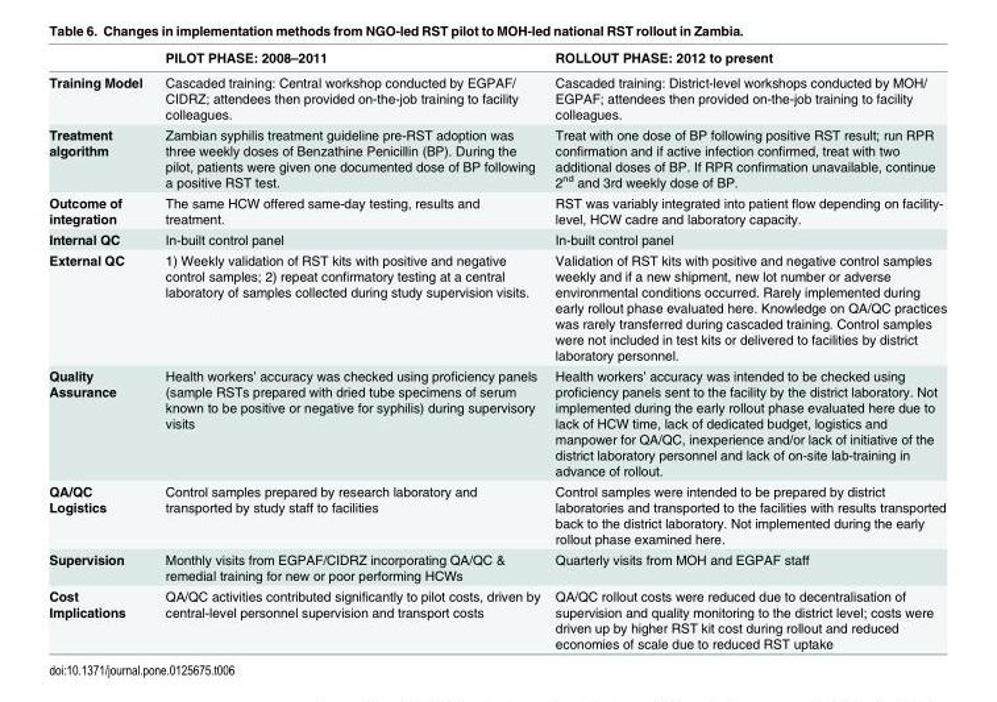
<table><thead><tr><td></td><td>PILOT PHASE: 2008–2011</td><td>ROLLOUT PHASE: 2012 to present</td></tr></thead><tbody><tr><td>Training Model</td><td>Cascaded training: Central workshop conducted by EGPAF/ CIDRZ; attendees then provided on-the-job training to facility colleagues.</td><td>Cascaded training: District-level workshops conducted by MOH/ EGPAF; attendees then provided on-the-job training to facility colleagues.</td></tr><tr><td>Treatment algorithm</td><td>Zambian syphilis treatment guideline pre-RST adoption was three weekly doses of Benzathine Penicillin (BP). During the pilot, patients were given one documented dose of BP following a positive RST test.</td><td>Treat with one dose of BP following positive RST result; run RPR confirmation and if active infection confirmed, treat with two additional doses of BP. If RPR confirmation unavailable, continue 2<sup>nd</sup> and 3rd weekly dose of BP.</td></tr><tr><td>Outcome of integration</td><td>The same HCW offered same-day testing, results and treatment.</td><td>RST was variably integrated into patient flow depending on facility- level, HCW cadre and laboratory capacity.</td></tr><tr><td>Internal QC</td><td>In-built control panel</td><td>In-built control panel</td></tr><tr><td>External QC</td><td>1) Weekly validation of RST kits with positive and negative control samples; 2) repeat confirmatory testing at a central laboratory of samples collected during study supervision visits.</td><td>Validation of RST kits with positive and negative control samples weekly and if a new shipment, new lot number or adverse environmental conditions occurred. Rarely implemented during early rollout phase evaluated here. Knowledge on QA/QC practices was rarely transferred during cascaded training. Control samples were not included in test kits or delivered to facilities by district laboratory personnel.</td></tr><tr><td>Quality Assurance</td><td>Health workers’ accuracy was checked using proficiency panels (sample RSTs prepared with dried tube specimens of serum known to be positive or negative for syphilis) during supervisory visits</td><td>Health workers’ accuracy was intended to be checked using proficiency panels sent to the facility by the district laboratory. Not implemented during the early rollout phase evaluated here due to lack of HCW time, lack of dedicated budget, logistics and manpower for QA/QC, inexperience and/or lack of initiative of the district laboratory personnel and lack of on-site lab-training in advance of rollout.</td></tr><tr><td>QA/QC Logistics</td><td>Control samples prepared by research laboratory and transported by study staff to facilities</td><td>Control samples were intended to be prepared by district laboratories and transported to the facilities with results transported back to the district laboratory. Not implemented during the early rollout phase examined here.</td></tr><tr><td>Supervision</td><td>Monthly visits from EGPAF/CIDRZ incorporating QA/QC &amp; remedial training for new or poor performing HCWs</td><td>Quarterly visits from MOH and EGPAF staff</td></tr><tr><td>Cost Implications</td><td>QA/QC activities contributed significantly to pilot costs, driven by central-level personnel supervision and transport costs</td><td>QA/QC rollout costs were reduced due to decentralisation of supervision and quality monitoring to the district level; costs were driven up by higher RST kit cost during rollout and reduced economies of scale due to reduced RST uptake</td></tr></tbody></table>